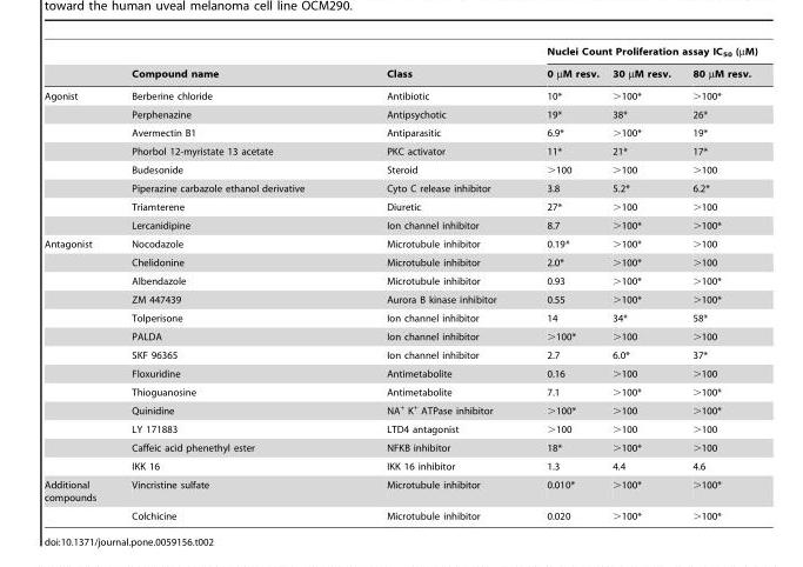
<table><thead><tr><td rowspan="2"></td><td rowspan="2">Compound name</td><td rowspan="2">Class</td><td colspan="3">Nuclei Count Proliferation assay IC<sub>50</sub> (µM)</td></tr><tr><td>0 µM resv.</td><td>30 µM resv.</td><td>80 µM resv.</td></tr></thead><tbody><tr><td rowspan="8">Agonist</td><td>Berberine chloride</td><td>Antibiotic</td><td>10*</td><td>&gt;100*</td><td>&gt;100*</td></tr><tr><td>Perphenazine</td><td>Antipsychotic</td><td>19*</td><td>38*</td><td>26*</td></tr><tr><td>Avermectin B1</td><td>Antiparasitic</td><td>6.9*</td><td>&gt;100*</td><td>19*</td></tr><tr><td>Phorbol 12-myristate 13 acetate</td><td>PKC activator</td><td>11*</td><td>21*</td><td>17*</td></tr><tr><td>Budesonide</td><td>Steroid</td><td>&gt;100</td><td>&gt;100</td><td>&gt;100</td></tr><tr><td>Piperazine carbazole ethanol derivative</td><td>Cyto C release inhibitor</td><td>3.8</td><td>5.2*</td><td>6.2*</td></tr><tr><td>Triamterene</td><td>Diuretic</td><td>27*</td><td>&gt;100</td><td>&gt;100</td></tr><tr><td>Lercanidipine</td><td>Ion channel inhibitor</td><td>8.7</td><td>&gt;100*</td><td>&gt;100*</td></tr><tr><td rowspan="13">Antagonist</td><td>Nocodazole</td><td>Microtubule inhibitor</td><td>0.19*</td><td>&gt;100*</td><td>&gt;100</td></tr><tr><td>Chelidonine</td><td>Microtubule inhibitor</td><td>2.0*</td><td>&gt;100*</td><td>&gt;100</td></tr><tr><td>Albendazole</td><td>Microtubule inhibitor</td><td>0.93</td><td>&gt;100*</td><td>&gt;100*</td></tr><tr><td>ZM 447439</td><td>Aurora B kinase inhibitor</td><td>0.55</td><td>&gt;100*</td><td>&gt;100*</td></tr><tr><td>Tolperisone</td><td>Ion channel inhibitor</td><td>14</td><td>34*</td><td>58*</td></tr><tr><td>PALDA</td><td>Ion channel inhibitor</td><td>&gt;100*</td><td>&gt;100</td><td>&gt;100</td></tr><tr><td>SKF 96365</td><td>Ion channel inhibitor</td><td>2.7</td><td>6.0*</td><td>37*</td></tr><tr><td>Floxuridine</td><td>Antimetabolite</td><td>0.16</td><td>&gt;100</td><td>&gt;100</td></tr><tr><td>Thioguanosine</td><td>Antimetabolite</td><td>7.1</td><td>&gt;100*</td><td>&gt;100*</td></tr><tr><td>Quinidine</td><td>NA<sup>+</sup> K<sup>+</sup> ATPase inhibitor</td><td>&gt;100*</td><td>&gt;100</td><td>&gt;100*</td></tr><tr><td>LY 171883</td><td>LTD4 antagonist</td><td>&gt;100</td><td>&gt;100</td><td>&gt;100</td></tr><tr><td>Caffeic acid phenethyl ester</td><td>NFKB inhibitor</td><td>18*</td><td>&gt;100*</td><td>&gt;100</td></tr><tr><td>IKK 16</td><td>IKK 16 inhibitor</td><td>1.3</td><td>4.4</td><td>4.6</td></tr><tr><td rowspan="2">Additional compounds</td><td>Vincristine sulfate</td><td>Microtubule inhibitor</td><td>0.010*</td><td>&gt;100*</td><td>&gt;100*</td></tr><tr><td>Colchicine</td><td>Microtubule inhibitor</td><td>0.020</td><td>&gt;100*</td><td>&gt;100*</td></tr></tbody></table>